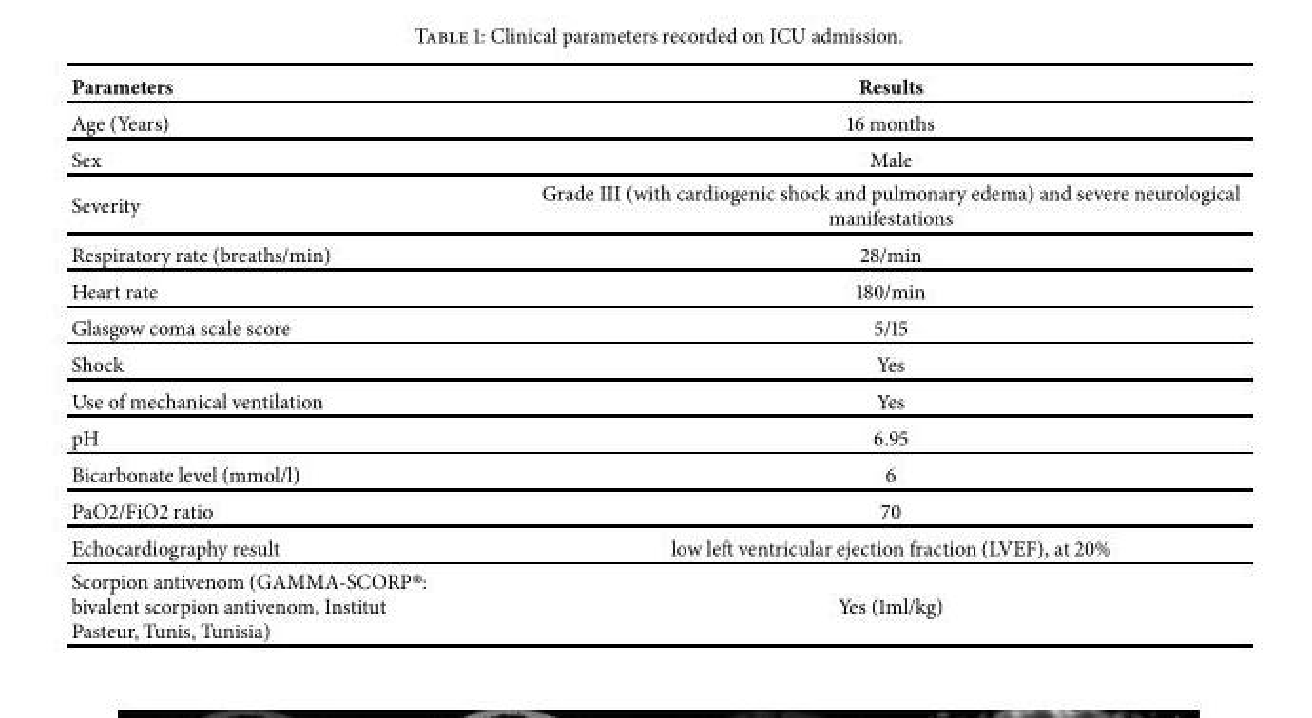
<table><thead><tr><td>Parameters</td><td>Results</td></tr></thead><tbody><tr><td>Age (Years)</td><td>16 months</td></tr><tr><td>Sex</td><td>Male</td></tr><tr><td>Severity</td><td>Grade III (with cardiogenic shock and pulmonary edema) and severe neurological manifestations</td></tr><tr><td>Respiratory rate (breaths/min)</td><td>28/min</td></tr><tr><td>Heart rate</td><td>180/min</td></tr><tr><td>Glasgow coma scale score</td><td>5/15</td></tr><tr><td>Shock</td><td>Yes</td></tr><tr><td>Use of mechanical ventilation</td><td>Yes</td></tr><tr><td>pH</td><td>6.95</td></tr><tr><td>Bicarbonate level (mmol/l)</td><td>6</td></tr><tr><td>PaO2/FiO2 ratio</td><td>70</td></tr><tr><td>Echocardiography result</td><td>low left ventricular ejection fraction (LVEF), at 20%</td></tr><tr><td>Scorpion antivenom (GAMMA-SCORP®: bivalent scorpion antivenom, Institut Pasteur, Tunis, Tunisia)</td><td>Yes (1ml/kg)</td></tr></tbody></table>